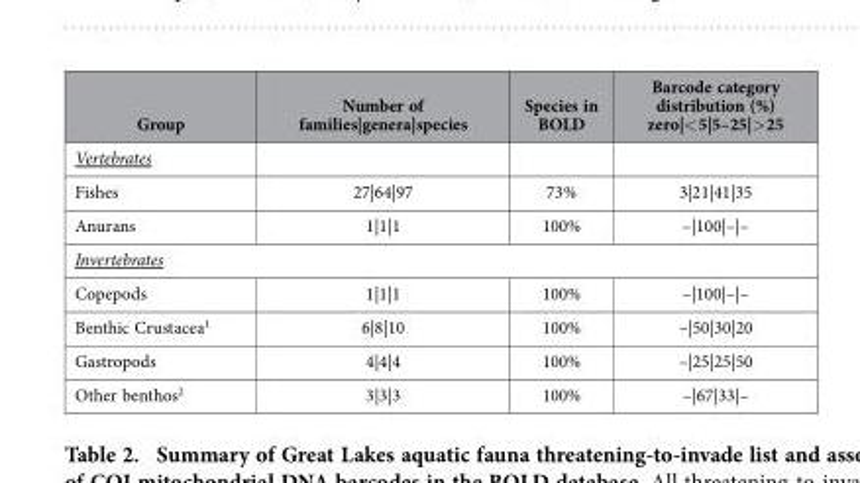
<table><thead><tr><td>Group</td><td>Number of families|genera|species</td><td>Species in BOLD</td><td>Barcode category distribution (%) zero|&lt; 5|5–25|&gt; 25</td></tr></thead><tbody><tr><td colspan="4">Vertebrates</td></tr><tr><td>Fishes</td><td>27|64|97</td><td>73%</td><td>3|21|41|35</td></tr><tr><td>Anurans</td><td>1|1|1</td><td>100%</td><td>–|100|–|–</td></tr><tr><td colspan="4">Invertebrates</td></tr><tr><td>Copepods</td><td>1|1|1</td><td>100%</td><td>–|100|–|–</td></tr><tr><td>Benthic Crustacea<sup>1</sup></td><td>6|8|10</td><td>100%</td><td>–|50|30|20</td></tr><tr><td>Gastropods</td><td>4|4|4</td><td>100%</td><td>–|25|25|50</td></tr><tr><td>Other benthos<sup>2</sup></td><td>3|3|3</td><td>100%</td><td>–|67|33|–</td></tr></tbody></table>